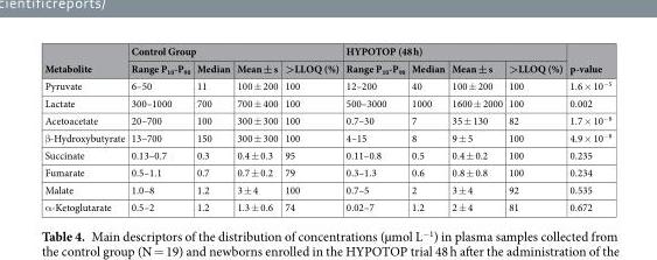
<table><thead><tr><td rowspan="2">Metabolite</td><td colspan="4">Control Group</td><td colspan="4">HYPOTOP (48 h)</td><td rowspan="2">p-value</td></tr><tr><td>Range P<sub>10</sub>-P<sub>90</sub></td><td>Median</td><td>Mean ± s</td><td>&gt;LLOQ (%)</td><td>Range P<sub>10</sub>-P<sub>90</sub></td><td>Median</td><td>Mean ± s</td><td>&gt;LLOQ (%)</td></tr></thead><tbody><tr><td>Pyruvate</td><td>6–50</td><td>11</td><td>100 ± 200</td><td>100</td><td>12–200</td><td>40</td><td>100 ± 200</td><td>100</td><td>1.6 × 10<sup>−5</sup></td></tr><tr><td>Lactate</td><td>300–1000</td><td>700</td><td>700 ± 400</td><td>100</td><td>500–3000</td><td>1000</td><td>1600 ± 2000</td><td>100</td><td>0.002</td></tr><tr><td>Acetoacetate</td><td>20–700</td><td>100</td><td>300 ± 300</td><td>100</td><td>0.7–30</td><td>7</td><td>35 ± 130</td><td>82</td><td>1.7 × 10<sup>−8</sup></td></tr><tr><td>β-Hydroxybutyrate</td><td>13–700</td><td>150</td><td>300 ± 300</td><td>100</td><td>4–15</td><td>8</td><td>9 ± 5</td><td>100</td><td>4.9 × 10<sup>−8</sup></td></tr><tr><td>Succinate</td><td>0.13–0.7</td><td>0.3</td><td>0.4 ± 0.3</td><td>95</td><td>0.11–0.8</td><td>0.5</td><td>0.4 ± 0.2</td><td>100</td><td>0.235</td></tr><tr><td>Fumarate</td><td>0.5–1.1</td><td>0.7</td><td>0.7 ± 0.2</td><td>79</td><td>0.3–1.3</td><td>0.6</td><td>0.8 ± 0.8</td><td>100</td><td>0.234</td></tr><tr><td>Malate</td><td>1.0–8</td><td>1.2</td><td>3 ± 4</td><td>100</td><td>0.7–5</td><td>2</td><td>3 ± 4</td><td>92</td><td>0.535</td></tr><tr><td>α-Ketoglutarate</td><td>0.5–2</td><td>1.2</td><td>1.3 ± 0.6</td><td>74</td><td>0.02–7</td><td>1.2</td><td>2 ± 4</td><td>81</td><td>0.672</td></tr></tbody></table>